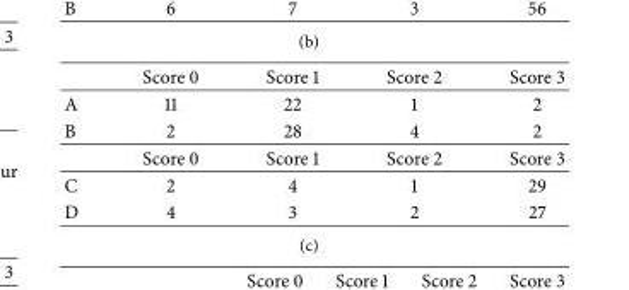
<table><thead><tr><td></td><td>Score 0</td><td>Score 1</td><td>Score 2</td><td>Score 3</td></tr></thead><tbody><tr><td>A</td><td>11</td><td>22</td><td>1</td><td>2</td></tr><tr><td rowspan="2">B</td><td>2</td><td>28</td><td>4</td><td>2</td></tr><tr><td>Score 0</td><td>Score 1</td><td>Score 2</td><td>Score 3</td></tr><tr><td>C</td><td>2</td><td>4</td><td>1</td><td>29</td></tr><tr><td>D</td><td>4</td><td>3</td><td>2</td><td>27</td></tr></tbody></table>